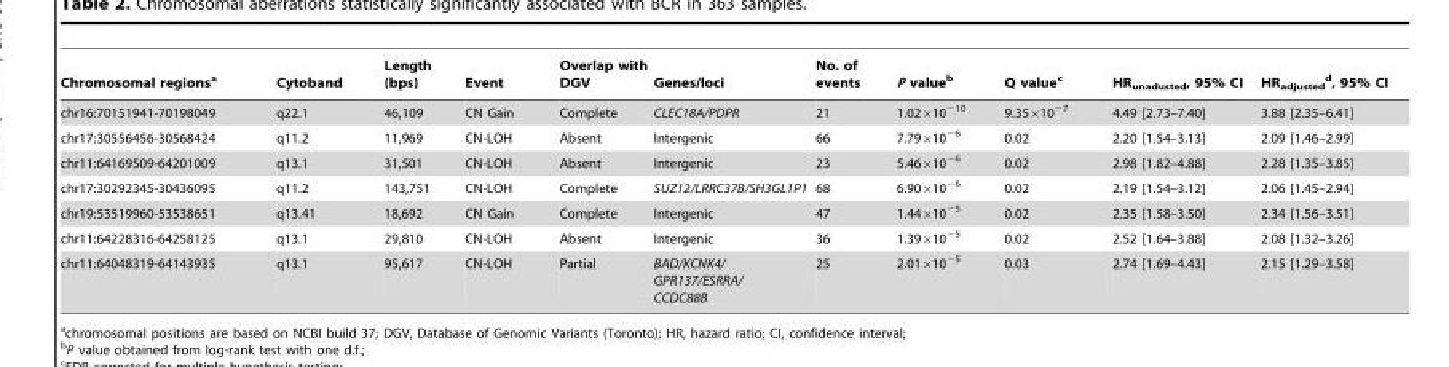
<table><thead><tr><td>Chromosomal regions<sup>a</sup></td><td>Cytoband</td><td>Length (bps)</td><td>Event</td><td>Overlap with DGV</td><td>Genes/loci</td><td>No. of events</td><td>P value<sup>b</sup></td><td>Q value<sup>c</sup></td><td>HR<sub>unadusted</sub>, 95% CI</td><td>HR<sub>adjusted</sub> d, 95% CI</td></tr></thead><tbody><tr><td>chr16:70151941-70198049</td><td>q22.1</td><td>46,109</td><td>CN Gain</td><td>Complete</td><td>CLEC18A/PDPR</td><td>21</td><td>1.02×10<sup>−10</sup></td><td>9.35×10<sup>−7</sup></td><td>4.49 [2.73–7.40]</td><td>3.88 [2.35–6.41]</td></tr><tr><td>chr17:30556456-30568424</td><td>q11.2</td><td>11,969</td><td>CN-LOH</td><td>Absent</td><td>Intergenic</td><td>66</td><td>7.79×10<sup>−6</sup></td><td>0.02</td><td>2.20 [1.54–3.13]</td><td>2.09 [1.46–2.99]</td></tr><tr><td>chr11:64169509-64201009</td><td>q13.1</td><td>31,501</td><td>CN-LOH</td><td>Absent</td><td>Intergenic</td><td>23</td><td>5.46×10<sup>−6</sup></td><td>0.02</td><td>2.98 [1.82–4.88]</td><td>2.28 [1.35–3.85]</td></tr><tr><td>chr17:30292345-30436095</td><td>q11.2</td><td>143,751</td><td>CN-LOH</td><td>Complete</td><td>SUZ12/LRRC37B/SH3GL1P1</td><td>68</td><td>6.90×10<sup>−6</sup></td><td>0.02</td><td>2.19 [1.54–3.12]</td><td>2.06 [1.45–2.94]</td></tr><tr><td>chr19:53519960-53538651</td><td>q13.41</td><td>18,692</td><td>CN Gain</td><td>Complete</td><td>Intergenic</td><td>47</td><td>1.44×10<sup>−5</sup></td><td>0.02</td><td>2.35 [1.58–3.50]</td><td>2.34 [1.56–3.51]</td></tr><tr><td>chr11:64228316-64258125</td><td>q13.1</td><td>29,810</td><td>CN-LOH</td><td>Absent</td><td>Intergenic</td><td>36</td><td>1.39×10<sup>−5</sup></td><td>0.02</td><td>2.52 [1.64–3.88]</td><td>2.08 [1.32–3.26]</td></tr><tr><td>chr11:64048319-64143935</td><td>q13.1</td><td>95,617</td><td>CN-LOH</td><td>Partial</td><td>BAD/KCNK4/ GPR137/ESRRA/ CCDC88B</td><td>25</td><td>2.01×10<sup>−5</sup></td><td>0.03</td><td>2.74 [1.69–4.43]</td><td>2.15 [1.29–3.58]</td></tr></tbody></table>